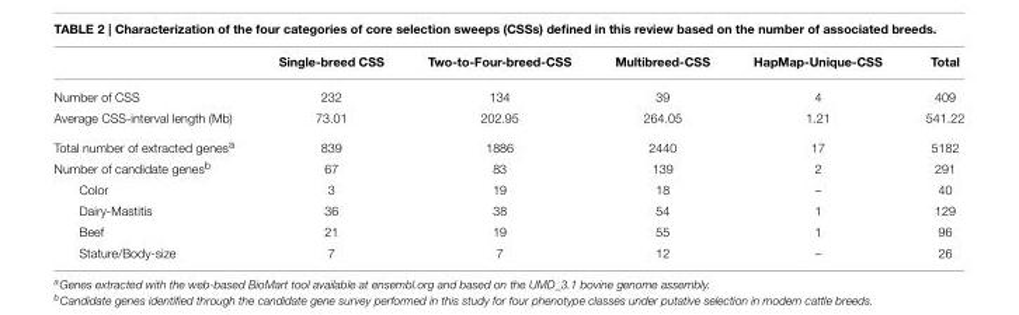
<table><thead><tr><td></td><td>Single-breed CSS</td><td>Two-to-Four-breed-CSS</td><td>Multibreed-CSS</td><td>HapMap-Unique-CSS</td><td>Total</td></tr></thead><tbody><tr><td>Number of CSS</td><td>232</td><td>134</td><td>39</td><td>4</td><td>409</td></tr><tr><td>Average CSS-interval length (Mb)</td><td>73.01</td><td>202.95</td><td>264.05</td><td>1.21</td><td>541.22</td></tr><tr><td>Total number of extracted genes<sup>a</sup></td><td>839</td><td>1886</td><td>2440</td><td>17</td><td>5182</td></tr><tr><td>Number of candidate genes<sup>b</sup></td><td>67</td><td>83</td><td>139</td><td>2</td><td>291</td></tr><tr><td>Color</td><td>3</td><td>19</td><td>18</td><td>–</td><td>40</td></tr><tr><td>Dairy-Mastitis</td><td>36</td><td>38</td><td>54</td><td>1</td><td>129</td></tr><tr><td>Beef</td><td>21</td><td>19</td><td>55</td><td>1</td><td>96</td></tr><tr><td>Stature/Body-size</td><td>7</td><td>7</td><td>12</td><td>–</td><td>26</td></tr></tbody></table>